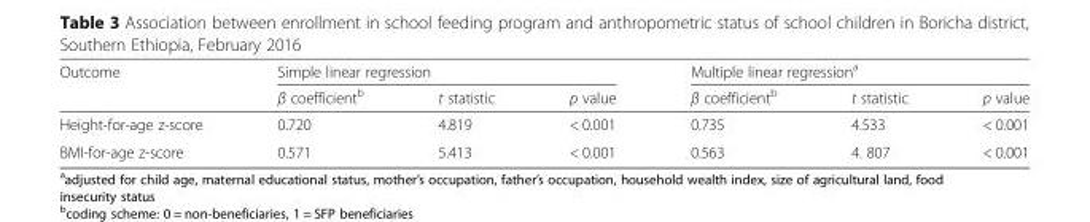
<table><thead><tr><td rowspan="2">Outcome</td><td colspan="3">Simple linear regression</td><td colspan="3">Multiple linear regression<sup>a</sup></td></tr><tr><td>β coefficient<sup>b</sup></td><td>t statistic</td><td>p value</td><td>β coefficient<sup>b</sup></td><td>t statistic</td><td>p value</td></tr></thead><tbody><tr><td>Height-for-age z-score</td><td>0.720</td><td>4.819</td><td>&lt; 0.001</td><td>0.735</td><td>4.533</td><td>&lt; 0.001</td></tr><tr><td>BMI-for-age z-score</td><td>0.571</td><td>5.413</td><td>&lt; 0.001</td><td>0.563</td><td>4. 807</td><td>&lt; 0.001</td></tr></tbody></table>